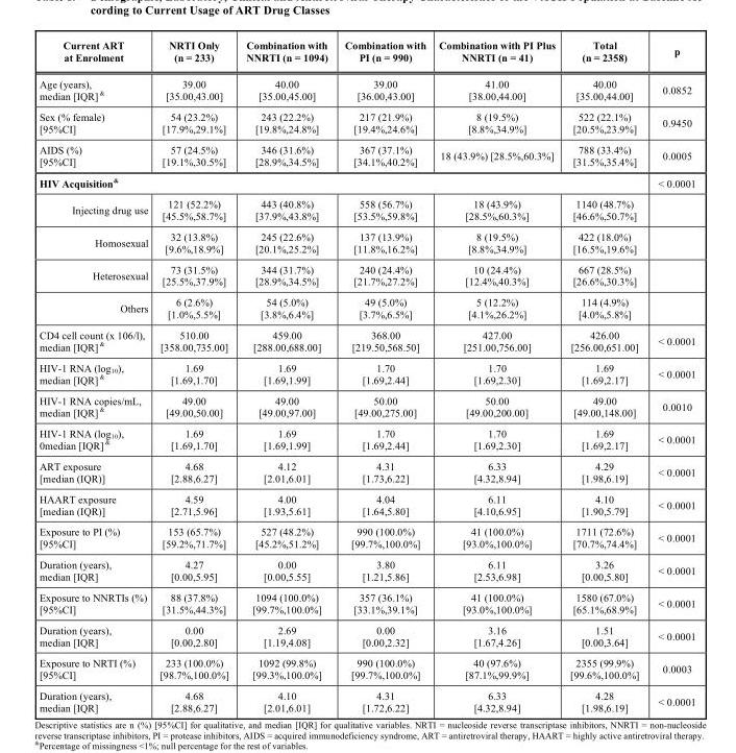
<table><tbody><tr><td>Current ART at Enrolment</td><td>NRTI Only (n = 233)</td><td>Combination with NNRTI (n = 1094)</td><td>Combination with PI (n = 990)</td><td>Combination with PI Plus NNRTI (n = 41)</td><td>Total (n = 2358)</td><td>p</td></tr><tr><td>Age (years), median [IQR] <sup>&amp;</sup></td><td>39.00 [35.00,43.00]</td><td>40.00 [35.00,45.00]</td><td>39.00 [36.00,43.00]</td><td>41.00 [38.00,44.00]</td><td>40.00 [35.00,44.00]</td><td>0.0852</td></tr><tr><td>Sex (% female) [95%CI]</td><td>54 (23.2%) [17.9%,29.1%]</td><td>243 (22.2%) [19.8%,24.8%]</td><td>217 (21.9%) [19.4%,24.6%]</td><td>8 (19.5%) [8.8%,34.9%]</td><td>522 (22.1%) [20.5%,23.9%]</td><td>0.9450</td></tr><tr><td>AIDS (%) [95%CI]</td><td>57 (24.5%) [19.1%,30.5%]</td><td>346 (31.6%) [28.9%,34.5%]</td><td>367 (37.1%) [34.1%,40.2%]</td><td>18 (43.9%) [28.5%,60.3%]</td><td>788 (33.4%) [31.5%,35.4%]</td><td>0.0005</td></tr><tr><td colspan="6">HIV Acquisition<sup>&amp;</sup></td><td>&lt; 0.0001</td></tr><tr><td>Injecting drug use</td><td>121 (52.2%) [45.5%,58.7%]</td><td>443 (40.8%) [37.9%,43.8%]</td><td>558 (56.7%) [53.5%,59.8%]</td><td>18 (43.9%) [28.5%,60.3%]</td><td>1140 (48.7%) [46.6%,50.7%]</td><td></td></tr><tr><td>Homosexual</td><td>32 (13.8%) [9.6%,18.9%]</td><td>245 (22.6%) [20.1%,25.2%]</td><td>137 (13.9%) [11.8%,16.2%]</td><td>8 (19.5%) [8.8%,34.9%]</td><td>422 (18.0%) [16.5%,19.6%]</td><td></td></tr><tr><td>Heterosexual</td><td>73 (31.5%) [25.5%,37.9%]</td><td>344 (31.7%) [28.9%,34.5%]</td><td>240 (24.4%) [21.7%,27.2%]</td><td>10 (24.4%) [12.4%,40.3%]</td><td>667 (28.5%) [26.6%,30.3%]</td><td></td></tr><tr><td>Others</td><td>6 (2.6%) [1.0%,5.5%]</td><td>54 (5.0%) [3.8%,6.4%]</td><td>49 (5.0%) [3.7%,6.5%]</td><td>5 (12.2%) [4.1%,26.2%]</td><td>114 (4.9%) [4.0%,5.8%]</td><td></td></tr><tr><td>CD4 cell count (x 106/l), median [IQR] <sup>&amp;</sup></td><td>510.00 [358.00,735.00]</td><td>459.00 [288.00,688.00]</td><td>368.00 [219.50,568.50]</td><td>427.00 [251.00,756.00]</td><td>426.00 [256.00,651.00]</td><td>&lt; 0.0001</td></tr><tr><td>HIV-1 RNA (log<sub>10</sub>), median [IQR] <sup>&amp;</sup></td><td>1.69 [1.69,1.70]</td><td>1.69 [1.69,1.99]</td><td>1.70 [1.69,2.44]</td><td>1.70 [1.69,2.30]</td><td>1.69 [1.69,2.17]</td><td>&lt; 0.0001</td></tr><tr><td>HIV-1 RNA copies/mL, median [IQR] <sup>&amp;</sup></td><td>49.00 [49.00,50.00]</td><td>49.00 [49.00,97.00]</td><td>50.00 [49.00,275.00]</td><td>50.00 [49.00,200.00]</td><td>49.00 [49.00,148.00]</td><td>0.0010</td></tr><tr><td>HIV-1 RNA (log<sub>10</sub>), 0median [IQR] <sup>&amp;</sup></td><td>1.69 [1.69,1.70]</td><td>1.69 [1.69,1.99]</td><td>1.70 [1.69,2.44]</td><td>1.70 [1.69,2.30]</td><td>1.69 [1.69,2.17]</td><td>&lt; 0.0001</td></tr><tr><td>ART exposure [median (IQR)]</td><td>4.68 [2.88,6.27]</td><td>4.12 [2.01,6.01]</td><td>4.31 [1.73,6.22]</td><td>6.33 [4.32,8.94]</td><td>4.29 [1.98,6.19]</td><td>&lt; 0.0001</td></tr><tr><td>HAART exposure [median (IQR)]</td><td>4.59 [2.71,5.96]</td><td>4.00 [1.93,5.61]</td><td>4.04 [1.64,5.80]</td><td>6.11 [4.10,6.95]</td><td>4.10 [1.90,5.79]</td><td>&lt; 0.0001</td></tr><tr><td>Exposure to PI (%) [95%CI]</td><td>153 (65.7%) [59.2%,71.7%]</td><td>527 (48.2%) [45.2%,51.2%]</td><td>990 (100.0%) [99.7%,100.0%]</td><td>41 (100.0%) [93.0%,100.0%]</td><td>1711 (72.6%) [70.7%,74.4%]</td><td>&lt; 0.0001</td></tr><tr><td>Duration (years), median [IQR]</td><td>4.27 [0.00,5.95]</td><td>0.00 [0.00,5.55]</td><td>3.80 [1.21,5.86]</td><td>6.11 [2.53,6.98]</td><td>3.26 [0.00,5.80]</td><td>&lt; 0.0001</td></tr><tr><td>Exposure to NNRTIs (%) [95%CI]</td><td>88 (37.8%) [31.5%,44.3%]</td><td>1094 (100.0%) [99.7%,100.0%]</td><td>357 (36.1%) [33.1%,39.1%]</td><td>41 (100.0%) [93.0%,100.0%]</td><td>1580 (67.0%) [65.1%,68.9%]</td><td>&lt; 0.0001</td></tr><tr><td>Duration (years), median [IQR]</td><td>0.00 [0.00,2.80]</td><td>2.69 [1.19,4.08]</td><td>0.00 [0.00,2.32]</td><td>3.16 [1.67,4.26]</td><td>1.51 [0.00,3.64]</td><td>&lt; 0.0001</td></tr><tr><td>Exposure to NRTI (%) [95%CI]</td><td>233 (100.0%) [98.7%,100.0%]</td><td>1092 (99.8%) [99.3%,100.0%]</td><td>990 (100.0%) [99.7%,100.0%]</td><td>40 (97.6%) [87.1%,99.9%]</td><td>2355 (99.9%) [99.6%,100.0%]</td><td>0.0003</td></tr><tr><td>Duration (years), median [IQR]</td><td>4.68 [2.88,6.27]</td><td>4.10 [2.01,6.01]</td><td>4.31 [1.72,6.22]</td><td>6.33 [4.32,8.94]</td><td>4.28 [1.98,6.19]</td><td>&lt; 0.0001</td></tr></tbody></table>